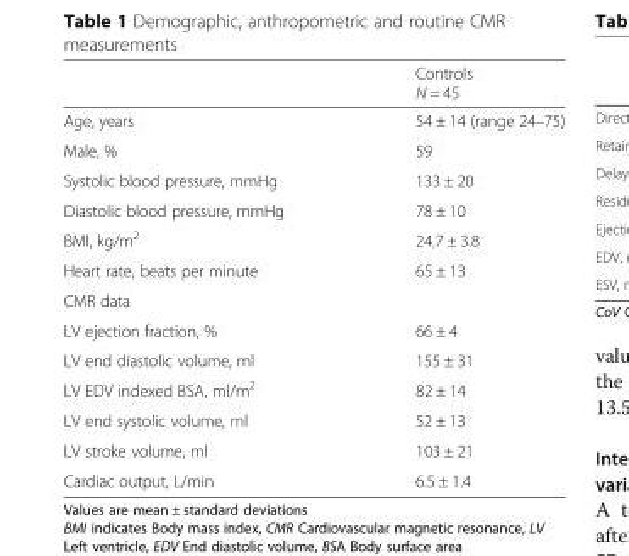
<table><thead><tr><td></td><td>Controls N = 45</td></tr></thead><tbody><tr><td>Age, years</td><td>54 ± 14 (range 24–75)</td></tr><tr><td>Male, %</td><td>59</td></tr><tr><td>Systolic blood pressure, mmHg</td><td>133 ± 20</td></tr><tr><td>Diastolic blood pressure, mmHg</td><td>78 ± 10</td></tr><tr><td>BMI, kg/m<sup>2</sup></td><td>24.7 ± 3.8</td></tr><tr><td>Heart rate, beats per minute</td><td>65 ± 13</td></tr><tr><td colspan="2">CMR data</td></tr><tr><td>LV ejection fraction, %</td><td>66 ± 4</td></tr><tr><td>LV end diastolic volume, ml</td><td>155 ± 31</td></tr><tr><td>LV EDV indexed BSA, ml/m<sup>2</sup></td><td>82 ± 14</td></tr><tr><td>LV end systolic volume, ml</td><td>52 ± 13</td></tr><tr><td>LV stroke volume, ml</td><td>103 ± 21</td></tr><tr><td>Cardiac output, L/min</td><td>6.5 ± 1.4</td></tr></tbody></table>